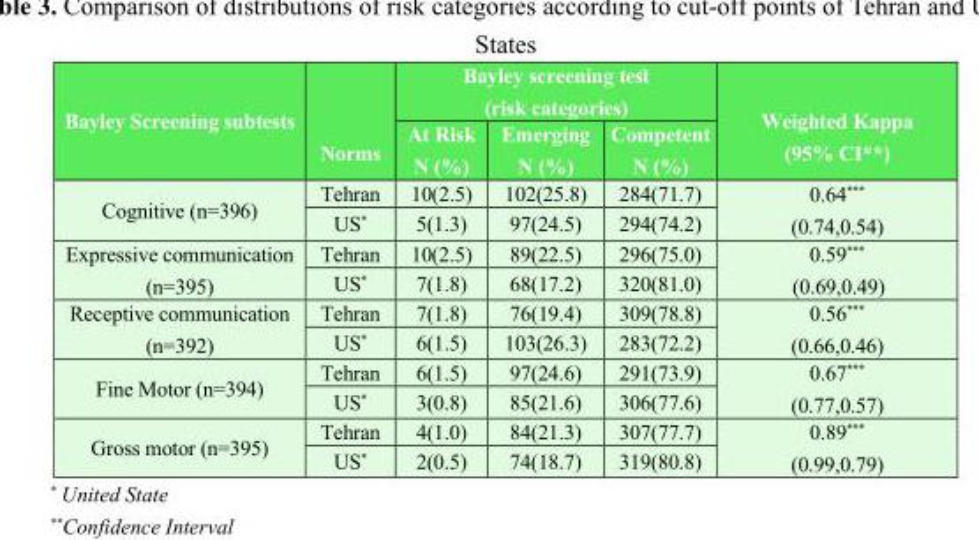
<table><thead><tr><td rowspan="2">Bayley Screening subtests</td><td rowspan="2">Norms</td><td colspan="3">Bayley screening test (risk categories)</td><td rowspan="2">Weighted Kappa (95% CI**)</td></tr><tr><td>At Risk N (%)</td><td>Emerging N (%)</td><td>Competent N (%)</td></tr></thead><tbody><tr><td rowspan="2">Cognitive (n=396)</td><td>Tehran</td><td>10(2.5)</td><td>102(25.8)</td><td>284(71.7)</td><td rowspan="2">0.64*** (0.74,0.54)</td></tr><tr><td>US*</td><td>5(1.3)</td><td>97(24.5)</td><td>294(74.2)</td></tr><tr><td rowspan="2">Expressive communication (n=395)</td><td>Tehran</td><td>10(2.5)</td><td>89(22.5)</td><td>296(75.0)</td><td rowspan="2">0.59*** (0.69,0.49)</td></tr><tr><td>US*</td><td>7(1.8)</td><td>68(17.2)</td><td>320(81.0)</td></tr><tr><td rowspan="2">Receptive communication (n=392)</td><td>Tehran</td><td>7(1.8)</td><td>76(19.4)</td><td>309(78.8)</td><td rowspan="2">0.56*** (0.66,0.46)</td></tr><tr><td>US*</td><td>6(1.5)</td><td>103(26.3)</td><td>283(72.2)</td></tr><tr><td rowspan="2">Fine Motor (n=394)</td><td>Tehran</td><td>6(1.5)</td><td>97(24.6)</td><td>291(73.9)</td><td rowspan="2">0.67*** (0.77,0.57)</td></tr><tr><td>US*</td><td>3(0.8)</td><td>85(21.6)</td><td>306(77.6)</td></tr><tr><td rowspan="2">Gross motor (n=395)</td><td>Tehran</td><td>4(1.0)</td><td>84(21.3)</td><td>307(77.7)</td><td rowspan="2">0.89*** (0.99,0.79)</td></tr><tr><td>US*</td><td>2(0.5)</td><td>74(18.7)</td><td>319(80.8)</td></tr></tbody></table>